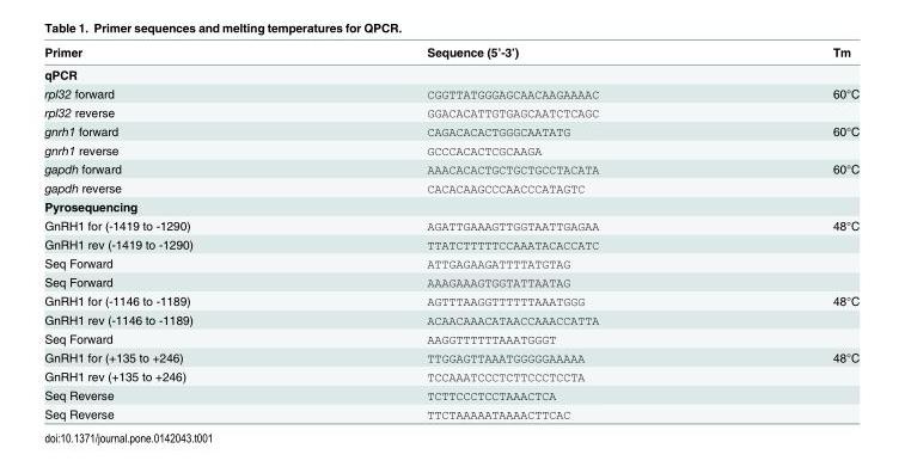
<table><thead><tr><td>Primer</td><td>Sequence (5’-3’)</td><td>Tm</td></tr></thead><tbody><tr><td colspan="3">qPCR</td></tr><tr><td>rpl32 forward</td><td>CGGTTATGGGAGCAACAAGAAAAC</td><td>60°C</td></tr><tr><td>rpl32 reverse</td><td>GGACACATTGTGAGCAATCTCAGC</td><td></td></tr><tr><td>gnrh1 forward</td><td>CAGACACACTGGGCAATATG</td><td>60°C</td></tr><tr><td>gnrh1 reverse</td><td>GCCCACACTCGCAAGA</td><td></td></tr><tr><td>gapdh forward</td><td>AAACACACTGCTGCTGCCTACATA</td><td>60°C</td></tr><tr><td>gapdh reverse</td><td>CACACAAGCCCAACCCATAGTC</td><td></td></tr><tr><td colspan="3">Pyrosequencing</td></tr><tr><td>GnRH1 for (-1419 to -1290)</td><td>AGATTGAAAGTTGGTAATTGAGAA</td><td>48°C</td></tr><tr><td>GnRH1 rev (-1419 to -1290)</td><td>TTATCTTTTTCCAAATACACCATC</td><td></td></tr><tr><td>Seq Forward</td><td>ATTGAGAAGATTTTATGTAG</td><td></td></tr><tr><td>Seq Forward</td><td>AAAGAAAGTGGTATTAATAG</td><td></td></tr><tr><td>GnRH1 for (-1146 to -1189)</td><td>AGTTTAAGGTTTTTTAAATGGG</td><td>48°C</td></tr><tr><td>GnRH1 rev (-1146 to -1189)</td><td>ACAACAAACATAACCAAACCATTA</td><td></td></tr><tr><td>Seq Forward</td><td>AAGGTTTTTTAAATGGGT</td><td></td></tr><tr><td>GnRH1 for (+135 to +246)</td><td>TTGGAGTTAAATGGGGGAAAAA</td><td>48°C</td></tr><tr><td>GnRH1 rev (+135 to +246)</td><td>TCCAAATCCCTCTTCCCTCCTA</td><td></td></tr><tr><td>Seq Reverse</td><td>TCTTCCCTCCTAAACTCA</td><td></td></tr><tr><td>Seq Reverse</td><td>TTCTAAAAATAAAACTTCAC</td><td></td></tr></tbody></table>